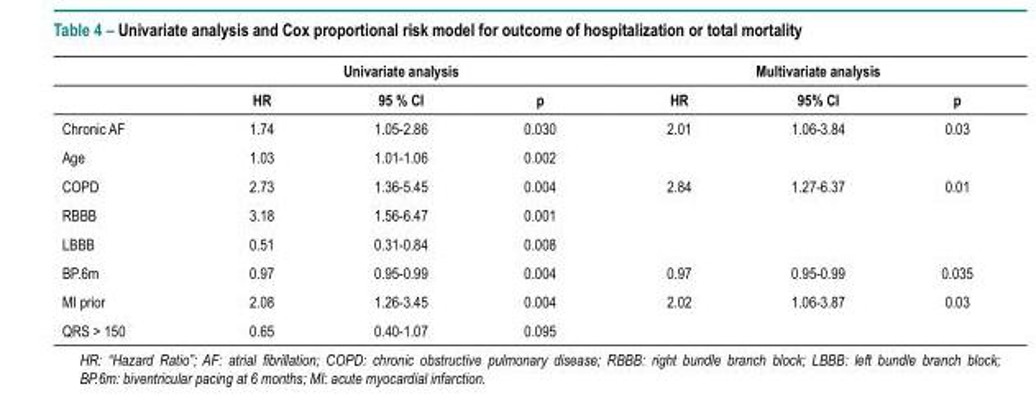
<table><thead><tr><td rowspan="2"></td><td colspan="3">Univariate analysis</td><td colspan="3">Multivariate analysis</td></tr><tr><td>HR</td><td>95 % CI</td><td>p</td><td>HR</td><td>95% CI</td><td>p</td></tr></thead><tbody><tr><td>Chronic AF</td><td>1.74</td><td>1.05-2.86</td><td>0.030</td><td>2.01</td><td>1.06-3.84</td><td>0.03</td></tr><tr><td>Age</td><td>1.03</td><td>1.01-1.06</td><td>0.002</td><td></td><td></td><td></td></tr><tr><td>COPD</td><td>2.73</td><td>1.36-5.45</td><td>0.004</td><td>2.84</td><td>1.27-6.37</td><td>0.01</td></tr><tr><td>RBBB</td><td>3.18</td><td>1.56-6.47</td><td>0.001</td><td></td><td></td><td></td></tr><tr><td>LBBB</td><td>0.51</td><td>0.31-0.84</td><td>0.008</td><td></td><td></td><td></td></tr><tr><td>BP.6m</td><td>0.97</td><td>0.95-0.99</td><td>0.004</td><td>0.97</td><td>0.95-0.99</td><td>0.035</td></tr><tr><td>MI prior</td><td>2.08</td><td>1.26-3.45</td><td>0.004</td><td>2.02</td><td>1.06-3.87</td><td>0.03</td></tr><tr><td>QRS &gt; 150</td><td>0.65</td><td>0.40-1.07</td><td>0.095</td><td></td><td></td><td></td></tr></tbody></table>